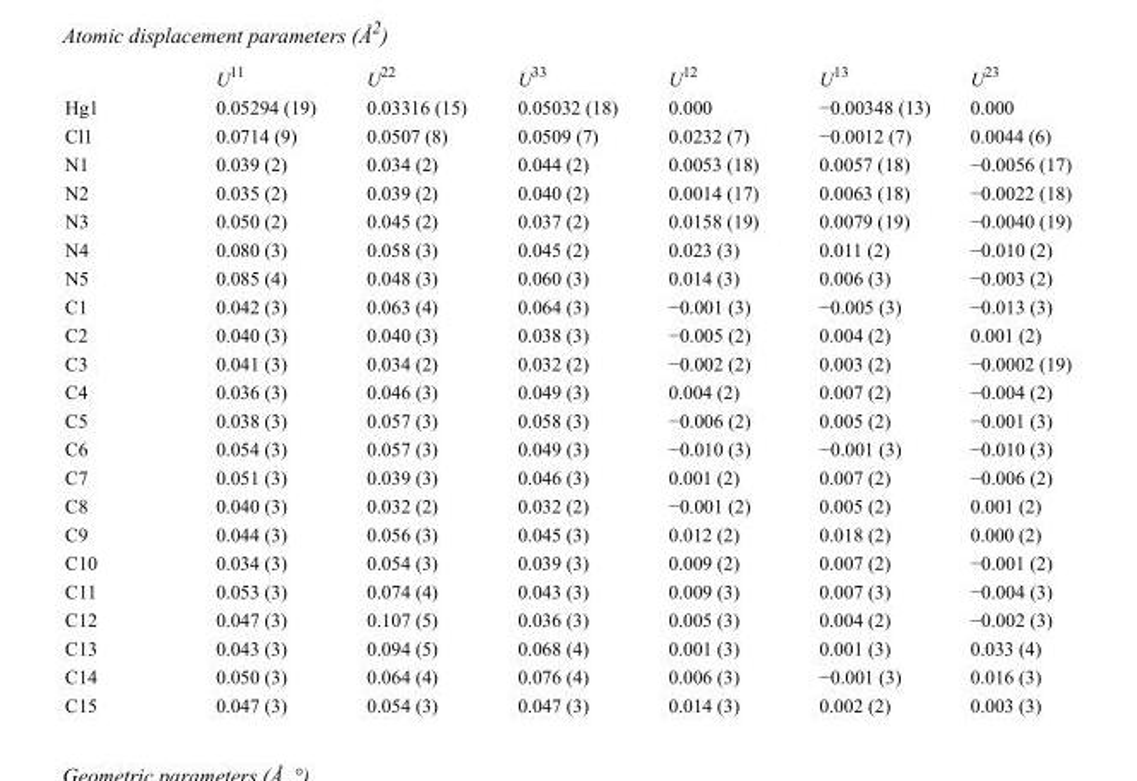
<table><thead><tr><td></td><td>U<sup>11</sup></td><td>U<sup>22</sup></td><td>U<sup>33</sup></td><td>U<sup>12</sup></td><td>U<sup>13</sup></td><td>U<sup>23</sup></td></tr></thead><tbody><tr><td>Hg1</td><td>0.05294 (19)</td><td>0.03316 (15)</td><td>0.05032 (18)</td><td>0.000</td><td>−0.00348 (13)</td><td>0.000</td></tr><tr><td>Cl1</td><td>0.0714 (9)</td><td>0.0507 (8)</td><td>0.0509 (7)</td><td>0.0232 (7)</td><td>−0.0012 (7)</td><td>0.0044 (6)</td></tr><tr><td>N1</td><td>0.039 (2)</td><td>0.034 (2)</td><td>0.044 (2)</td><td>0.0053 (18)</td><td>0.0057 (18)</td><td>−0.0056 (17)</td></tr><tr><td>N2</td><td>0.035 (2)</td><td>0.039 (2)</td><td>0.040 (2)</td><td>0.0014 (17)</td><td>0.0063 (18)</td><td>−0.0022 (18)</td></tr><tr><td>N3</td><td>0.050 (2)</td><td>0.045 (2)</td><td>0.037 (2)</td><td>0.0158 (19)</td><td>0.0079 (19)</td><td>−0.0040 (19)</td></tr><tr><td>N4</td><td>0.080 (3)</td><td>0.058 (3)</td><td>0.045 (2)</td><td>0.023 (3)</td><td>0.011 (2)</td><td>−0.010 (2)</td></tr><tr><td>N5</td><td>0.085 (4)</td><td>0.048 (3)</td><td>0.060 (3)</td><td>0.014 (3)</td><td>0.006 (3)</td><td>−0.003 (2)</td></tr><tr><td>C1</td><td>0.042 (3)</td><td>0.063 (4)</td><td>0.064 (3)</td><td>−0.001 (3)</td><td>−0.005 (3)</td><td>−0.013 (3)</td></tr><tr><td>C2</td><td>0.040 (3)</td><td>0.040 (3)</td><td>0.038 (3)</td><td>−0.005 (2)</td><td>0.004 (2)</td><td>0.001 (2)</td></tr><tr><td>C3</td><td>0.041 (3)</td><td>0.034 (2)</td><td>0.032 (2)</td><td>−0.002 (2)</td><td>0.003 (2)</td><td>−0.0002 (19)</td></tr><tr><td>C4</td><td>0.036 (3)</td><td>0.046 (3)</td><td>0.049 (3)</td><td>0.004 (2)</td><td>0.007 (2)</td><td>−0.004 (2)</td></tr><tr><td>C5</td><td>0.038 (3)</td><td>0.057 (3)</td><td>0.058 (3)</td><td>−0.006 (2)</td><td>0.005 (2)</td><td>−0.001 (3)</td></tr><tr><td>C6</td><td>0.054 (3)</td><td>0.057 (3)</td><td>0.049 (3)</td><td>−0.010 (3)</td><td>−0.001 (3)</td><td>−0.010 (3)</td></tr><tr><td>C7</td><td>0.051 (3)</td><td>0.039 (3)</td><td>0.046 (3)</td><td>0.001 (2)</td><td>0.007 (2)</td><td>−0.006 (2)</td></tr><tr><td>C8</td><td>0.040 (3)</td><td>0.032 (2)</td><td>0.032 (2)</td><td>−0.001 (2)</td><td>0.005 (2)</td><td>0.001 (2)</td></tr><tr><td>C9</td><td>0.044 (3)</td><td>0.056 (3)</td><td>0.045 (3)</td><td>0.012 (2)</td><td>0.018 (2)</td><td>0.000 (2)</td></tr><tr><td>C10</td><td>0.034 (3)</td><td>0.054 (3)</td><td>0.039 (3)</td><td>0.009 (2)</td><td>0.007 (2)</td><td>−0.001 (2)</td></tr><tr><td>C11</td><td>0.053 (3)</td><td>0.074 (4)</td><td>0.043 (3)</td><td>0.009 (3)</td><td>0.007 (3)</td><td>−0.004 (3)</td></tr><tr><td>C12</td><td>0.047 (3)</td><td>0.107 (5)</td><td>0.036 (3)</td><td>0.005 (3)</td><td>0.004 (2)</td><td>−0.002 (3)</td></tr><tr><td>C13</td><td>0.043 (3)</td><td>0.094 (5)</td><td>0.068 (4)</td><td>0.001 (3)</td><td>0.001 (3)</td><td>0.033 (4)</td></tr><tr><td>C14</td><td>0.050 (3)</td><td>0.064 (4)</td><td>0.076 (4)</td><td>0.006 (3)</td><td>−0.001 (3)</td><td>0.016 (3)</td></tr><tr><td>C15</td><td>0.047 (3)</td><td>0.054 (3)</td><td>0.047 (3)</td><td>0.014 (3)</td><td>0.002 (2)</td><td>0.003 (3)</td></tr></tbody></table>